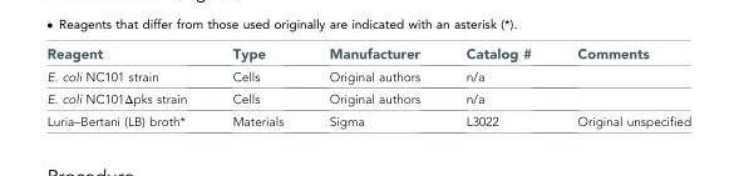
<table><thead><tr><td>Reagent</td><td>Type</td><td>Manufacturer</td><td>Catalog #</td><td>Comments</td></tr></thead><tbody><tr><td>E. coli NC101 strain</td><td>Cells</td><td>Original authors</td><td>n/a</td><td></td></tr><tr><td>E. coli NC101Δpks strain</td><td>Cells</td><td>Original authors</td><td>n/a</td><td></td></tr><tr><td>Luria–Bertani (LB) broth*</td><td>Materials</td><td>Sigma</td><td>L3022</td><td>Original unspecified</td></tr></tbody></table>